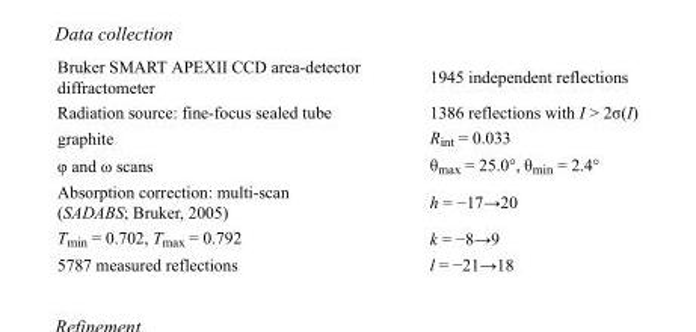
<table><tbody><tr><td>Bruker SMART APEXII CCD area-detector diffractometer</td><td>1945 independent reflections</td></tr><tr><td>Radiation source: fine-focus sealed tube</td><td>1386 reflections with I &gt; 2σ(I)</td></tr><tr><td>graphite</td><td>R<sub>int</sub> = 0.033</td></tr><tr><td>φ and ω scans</td><td>θ<sub>max</sub> = 25.0°, θ<sub>min</sub> = 2.4°</td></tr><tr><td>Absorption correction: multi-scan (SADABS; Bruker, 2005)</td><td>h = −17→20</td></tr><tr><td>T<sub>min</sub> = 0.702, T<sub>max</sub> = 0.792</td><td>k = −8→9</td></tr><tr><td>5787 measured reflections</td><td>l = −21→18</td></tr></tbody></table>